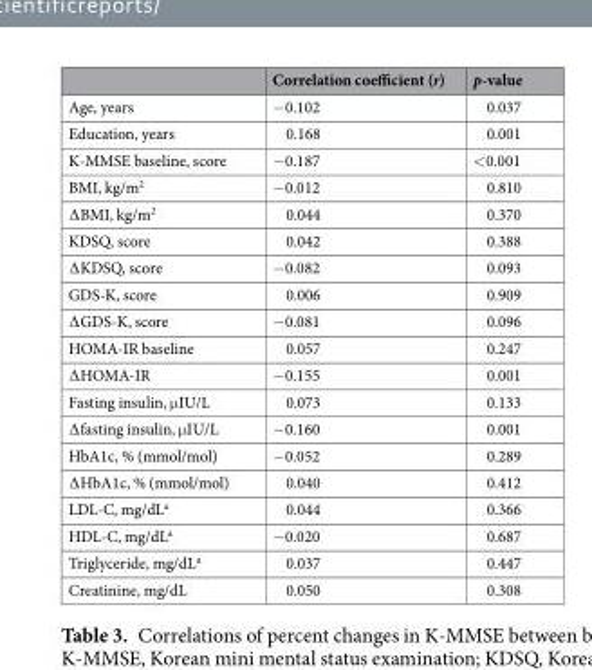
<table><thead><tr><td></td><td>Correlation coefficient (r)</td><td>p-value</td></tr></thead><tbody><tr><td>Age, years</td><td>−0.102</td><td>0.037</td></tr><tr><td>Education, years</td><td>0.168</td><td>0.001</td></tr><tr><td>K-MMSE baseline, score</td><td>−0.187</td><td>&lt;0.001</td></tr><tr><td>BMI, kg/m<sup>2</sup></td><td>−0.012</td><td>0.810</td></tr><tr><td>∆BMI, kg/m<sup>2</sup></td><td>0.044</td><td>0.370</td></tr><tr><td>KDSQ, score</td><td>0.042</td><td>0.388</td></tr><tr><td>∆KDSQ, score</td><td>−0.082</td><td>0.093</td></tr><tr><td>GDS-K, score</td><td>0.006</td><td>0.909</td></tr><tr><td>∆GDS-K, score</td><td>−0.081</td><td>0.096</td></tr><tr><td>HOMA-IR baseline</td><td>0.057</td><td>0.247</td></tr><tr><td>∆HOMA-IR</td><td>−0.155</td><td>0.001</td></tr><tr><td>Fasting insulin, μIU/L</td><td>0.073</td><td>0.133</td></tr><tr><td>∆fasting insulin, μIU/L</td><td>−0.160</td><td>0.001</td></tr><tr><td>HbA1c, % (mmol/mol)</td><td>−0.052</td><td>0.289</td></tr><tr><td>∆HbA1c, % (mmol/mol)</td><td>0.040</td><td>0.412</td></tr><tr><td>LDL-C, mg/dL<sup>a</sup></td><td>0.044</td><td>0.366</td></tr><tr><td>HDL-C, mg/dL<sup>a</sup></td><td>−0.020</td><td>0.687</td></tr><tr><td>Triglyceride, mg/dL<sup>a</sup></td><td>0.037</td><td>0.447</td></tr><tr><td>Creatinine, mg/dL</td><td>0.050</td><td>0.308</td></tr></tbody></table>